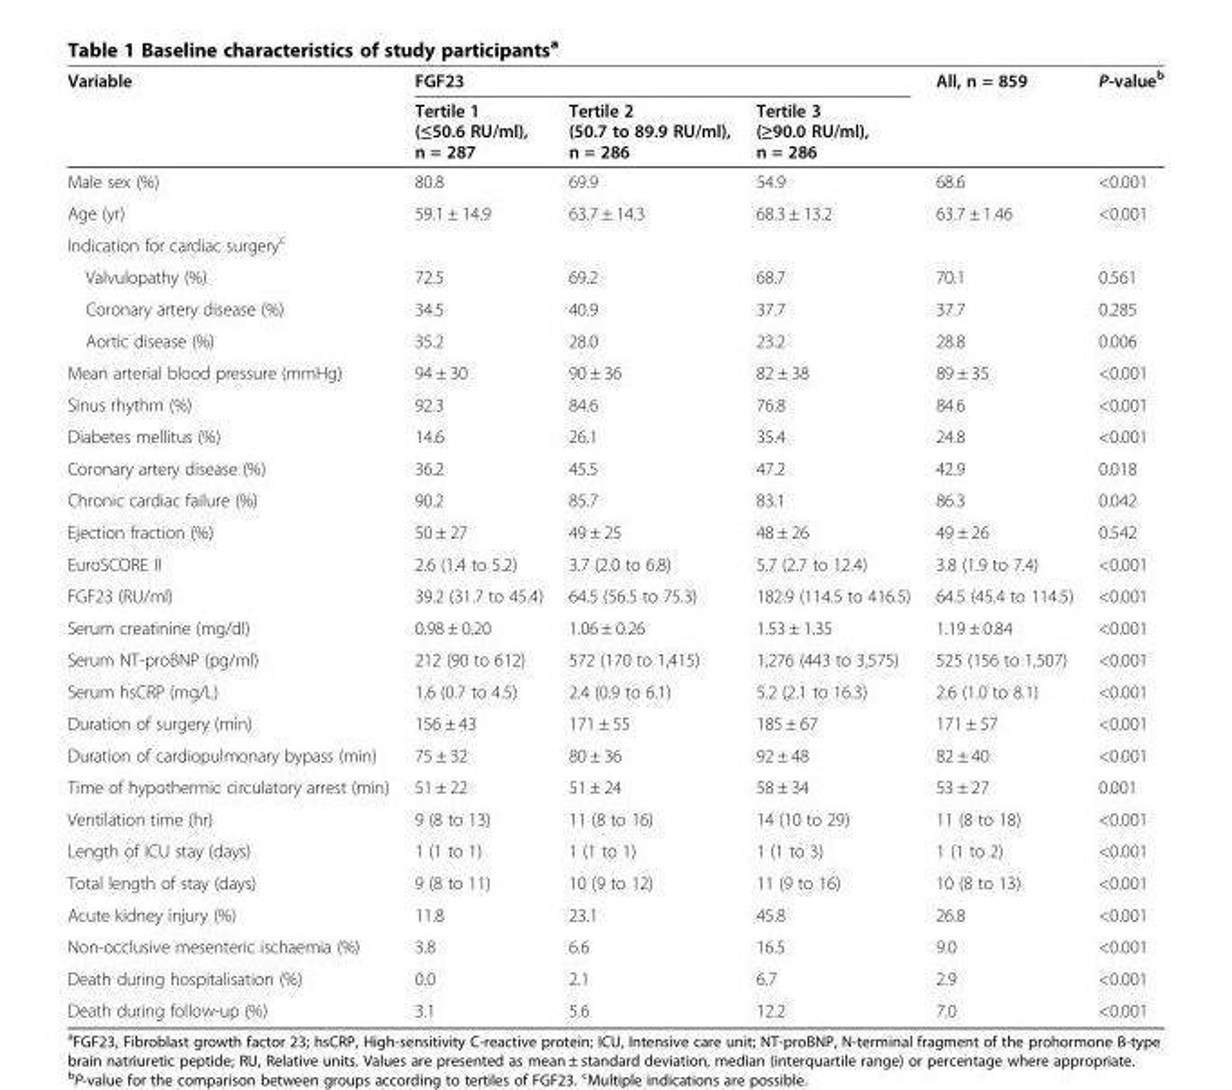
<table><thead><tr><td rowspan="2">Variable</td><td colspan="3">FGF23</td><td rowspan="2">All, n = 859</td><td rowspan="2">P-value<sup>b</sup></td></tr><tr><td>Tertile 1 (≤50.6 RU/ml), n = 287</td><td>Tertile 2 (50.7 to 89.9 RU/ml), n = 286</td><td>Tertile 3 (≥90.0 RU/ml), n = 286</td></tr></thead><tbody><tr><td>Male sex (%)</td><td>80.8</td><td>69.9</td><td>54.9</td><td>68.6</td><td>&lt;0.001</td></tr><tr><td>Age (yr)</td><td>59.1 ± 14.9</td><td>63.7 ± 14.3</td><td>68.3 ± 13.2</td><td>63.7 ± 1.46</td><td>&lt;0.001</td></tr><tr><td colspan="6">Indication for cardiac surgery<sup>c</sup></td></tr><tr><td>Valvulopathy (%)</td><td>72.5</td><td>69.2</td><td>68.7</td><td>70.1</td><td>0.561</td></tr><tr><td>Coronary artery disease (%)</td><td>34.5</td><td>40.9</td><td>37.7</td><td>37.7</td><td>0.285</td></tr><tr><td>Aortic disease (%)</td><td>35.2</td><td>28.0</td><td>23.2</td><td>28.8</td><td>0.006</td></tr><tr><td>Mean arterial blood pressure (mmHg)</td><td>94 ± 30</td><td>90 ± 36</td><td>82 ± 38</td><td>89 ± 35</td><td>&lt;0.001</td></tr><tr><td>Sinus rhythm (%)</td><td>92.3</td><td>84.6</td><td>76.8</td><td>84.6</td><td>&lt;0.001</td></tr><tr><td>Diabetes mellitus (%)</td><td>14.6</td><td>26.1</td><td>35.4</td><td>24.8</td><td>&lt;0.001</td></tr><tr><td>Coronary artery disease (%)</td><td>36.2</td><td>45.5</td><td>47.2</td><td>42.9</td><td>0.018</td></tr><tr><td>Chronic cardiac failure (%)</td><td>90.2</td><td>85.7</td><td>83.1</td><td>86.3</td><td>0.042</td></tr><tr><td>Ejection fraction (%)</td><td>50 ± 27</td><td>49 ± 25</td><td>48 ± 26</td><td>49 ± 26</td><td>0.542</td></tr><tr><td>EuroSCORE II</td><td>2.6 (1.4 to 5.2)</td><td>3.7 (2.0 to 6.8)</td><td>5.7 (2.7 to 12.4)</td><td>3.8 (1.9 to 7.4)</td><td>&lt;0.001</td></tr><tr><td>FGF23 (RU/ml)</td><td>39.2 (31.7 to 45.4)</td><td>64.5 (56.5 to 75.3)</td><td>182.9 (114.5 to 416.5)</td><td>64.5 (45.4 to 114.5)</td><td>&lt;0.001</td></tr><tr><td>Serum creatinine (mg/dl)</td><td>0.98 ± 0.20</td><td>1.06 ± 0.26</td><td>1.53 ± 1.35</td><td>1.19 ± 0.84</td><td>&lt;0.001</td></tr><tr><td>Serum NT-proBNP (pg/ml)</td><td>212 (90 to 612)</td><td>572 (170 to 1,415)</td><td>1,276 (443 to 3,575)</td><td>525 (156 to 1,507)</td><td>&lt;0.001</td></tr><tr><td>Serum hsCRP (mg/L)</td><td>1.6 (0.7 to 4.5)</td><td>2.4 (0.9 to 6.1)</td><td>5.2 (2.1 to 16.3)</td><td>2.6 (1.0 to 8.1)</td><td>&lt;0.001</td></tr><tr><td>Duration of surgery (min)</td><td>156 ± 43</td><td>171 ± 55</td><td>185 ± 67</td><td>171 ± 57</td><td>&lt;0.001</td></tr><tr><td>Duration of cardiopulmonary bypass (min)</td><td>75 ± 32</td><td>80 ± 36</td><td>92 ± 48</td><td>82 ± 40</td><td>&lt;0.001</td></tr><tr><td>Time of hypothermic circulatory arrest (min)</td><td>51 ± 22</td><td>51 ± 24</td><td>58 ± 34</td><td>53 ± 27</td><td>0.001</td></tr><tr><td>Ventilation time (hr)</td><td>9 (8 to 13)</td><td>11 (8 to 16)</td><td>14 (10 to 29)</td><td>11 (8 to 18)</td><td>&lt;0.001</td></tr><tr><td>Length of ICU stay (days)</td><td>1 (1 to 1)</td><td>1 (1 to 1)</td><td>1 (1 to 3)</td><td>1 (1 to 2)</td><td>&lt;0.001</td></tr><tr><td>Total length of stay (days)</td><td>9 (8 to 11)</td><td>10 (9 to 12)</td><td>11 (9 to 16)</td><td>10 (8 to 13)</td><td>&lt;0.001</td></tr><tr><td>Acute kidney injury (%)</td><td>11.8</td><td>23.1</td><td>45.8</td><td>26.8</td><td>&lt;0.001</td></tr><tr><td>Non-occlusive mesenteric ischaemia (%)</td><td>3.8</td><td>6.6</td><td>16.5</td><td>9.0</td><td>&lt;0.001</td></tr><tr><td>Death during hospitalisation (%)</td><td>0.0</td><td>2.1</td><td>6.7</td><td>2.9</td><td>&lt;0.001</td></tr><tr><td>Death during follow-up (%)</td><td>3.1</td><td>5.6</td><td>12.2</td><td>7.0</td><td>&lt;0.001</td></tr></tbody></table>